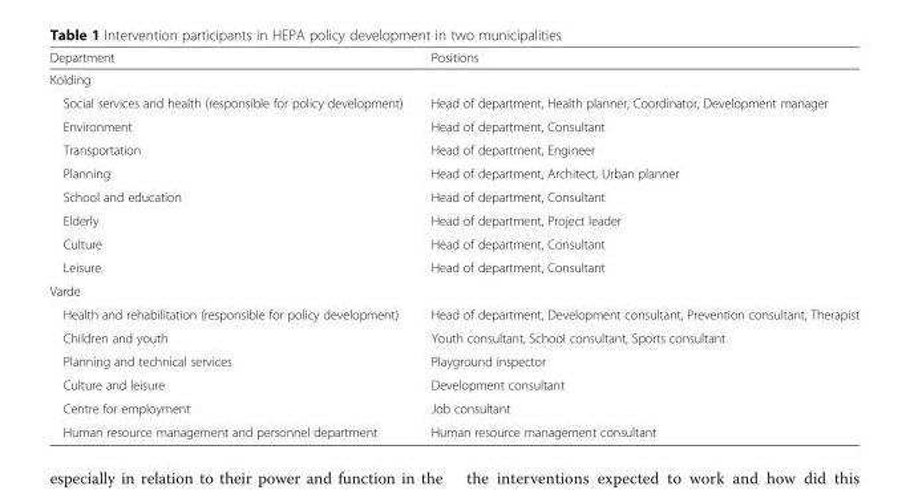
<table><thead><tr><td>Department</td><td>Positions</td></tr></thead><tbody><tr><td colspan="2">Kolding</td></tr><tr><td>Social services and health (responsible for policy development)</td><td>Head of department, Health planner, Coordinator, Development manager</td></tr><tr><td>Environment</td><td>Head of department, Consultant</td></tr><tr><td>Transportation</td><td>Head of department, Engineer</td></tr><tr><td>Planning</td><td>Head of department, Architect, Urban planner</td></tr><tr><td>School and education</td><td>Head of department, Consultant</td></tr><tr><td>Elderly</td><td>Head of department, Project leader</td></tr><tr><td>Culture</td><td>Head of department, Consultant</td></tr><tr><td>Leisure</td><td>Head of department, Consultant</td></tr><tr><td colspan="2">Varde</td></tr><tr><td>Health and rehabilitation (responsible for policy development)</td><td>Head of department, Development consultant, Prevention consultant, Therapist</td></tr><tr><td>Children and youth</td><td>Youth consultant, School consultant, Sports consultant</td></tr><tr><td>Planning and technical services</td><td>Playground inspector</td></tr><tr><td>Culture and leisure</td><td>Development consultant</td></tr><tr><td>Centre for employment</td><td>Job consultant</td></tr><tr><td>Human resource management and personnel department</td><td>Human resource management consultant</td></tr></tbody></table>